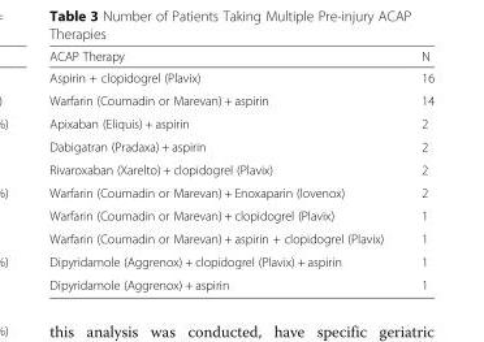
<table><thead><tr><td>ACAP Therapy</td><td>N</td></tr></thead><tbody><tr><td>Aspirin + clopidogrel (Plavix)</td><td>16</td></tr><tr><td>Warfarin (Coumadin or Marevan) + aspirin</td><td>14</td></tr><tr><td>Apixaban (Eliquis) + aspirin</td><td>2</td></tr><tr><td>Dabigatran (Pradaxa) + aspirin</td><td>2</td></tr><tr><td>Rivaroxaban (Xarelto) + clopidogrel (Plavix)</td><td>2</td></tr><tr><td>Warfarin (Coumadin or Marevan) + Enoxaparin (lovenox)</td><td>2</td></tr><tr><td>Warfarin (Coumadin or Marevan) + clopidogrel (Plavix)</td><td>1</td></tr><tr><td>Warfarin (Coumadin or Marevan) + aspirin + clopidogrel (Plavix)</td><td>1</td></tr><tr><td>Dipyridamole (Aggrenox) + clopidogrel (Plavix) + aspirin</td><td>1</td></tr><tr><td>Dipyridamole (Aggrenox) + aspirin</td><td>1</td></tr></tbody></table>